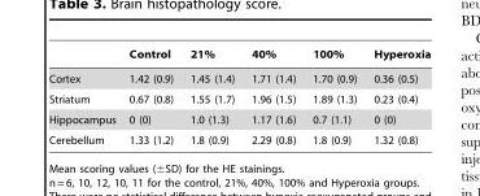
<table><thead><tr><td></td><td>Control</td><td>21%</td><td>40%</td><td>100%</td><td>Hyperoxia</td></tr></thead><tbody><tr><td>Cortex</td><td>1.42 (0.9)</td><td>1.45 (1.4)</td><td>1.71 (1.4)</td><td>1.70 (0.9)</td><td>0.36 (0.5)</td></tr><tr><td>Striatum</td><td>0.67 (0.8)</td><td>1.55 (1.7)</td><td>1.96 (1.5)</td><td>1.89 (1.3)</td><td>0.23 (0.4)</td></tr><tr><td>Hippocampus</td><td>0 (0)</td><td>1.0 (1.3)</td><td>1.17 (1.6)</td><td>0.7 (1.1)</td><td>0 (0)</td></tr><tr><td>Cerebellum</td><td>1.33 (1.2)</td><td>1.8 (0.9)</td><td>2.29 (0.8)</td><td>1.8 (0.9)</td><td>1.32 (0.8)</td></tr></tbody></table>